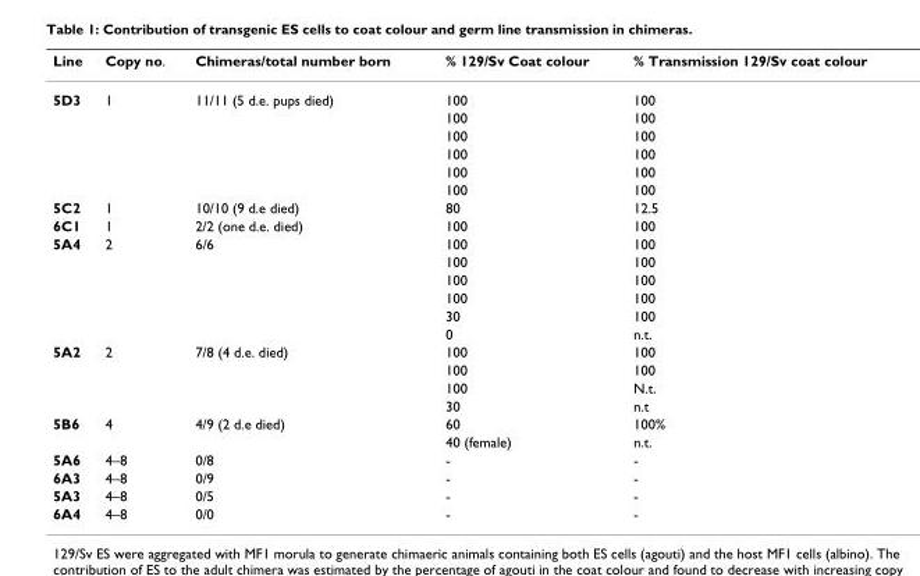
<table><thead><tr><td>Line</td><td>Copy no.</td><td>Chimeras/total number born</td><td>% 129/Sv Coat colour</td><td>% Transmission 129/Sv coat colour</td></tr></thead><tbody><tr><td rowspan="6">5D3</td><td>1</td><td>11/11 (5 d.e. pups died)</td><td>100</td><td>100</td></tr><tr><td></td><td></td><td>100</td><td>100</td></tr><tr><td></td><td></td><td>100</td><td>100</td></tr><tr><td></td><td></td><td>100</td><td>100</td></tr><tr><td></td><td></td><td>100</td><td>100</td></tr><tr><td></td><td></td><td>100</td><td>100</td></tr><tr><td>5C2</td><td>1</td><td>10/10 (9 d.e died)</td><td>80</td><td>12.5</td></tr><tr><td>6C1</td><td>1</td><td>2/2 (one d.e. died)</td><td>100</td><td>100</td></tr><tr><td rowspan="6">5A4</td><td>2</td><td>6/6</td><td>100</td><td>100</td></tr><tr><td></td><td></td><td>100</td><td>100</td></tr><tr><td></td><td></td><td>100</td><td>100</td></tr><tr><td></td><td></td><td>100</td><td>100</td></tr><tr><td></td><td></td><td>30</td><td>100</td></tr><tr><td></td><td></td><td>0</td><td>n.t.</td></tr><tr><td rowspan="4">5A2</td><td>2</td><td>7/8 (4 d.e. died)</td><td>100</td><td>100</td></tr><tr><td></td><td></td><td>100</td><td>100</td></tr><tr><td></td><td></td><td>100</td><td>N.t.</td></tr><tr><td></td><td></td><td>30</td><td>n.t</td></tr><tr><td rowspan="2">5B6</td><td>4</td><td>4/9 (2 d.e died)</td><td>60</td><td>100%</td></tr><tr><td></td><td></td><td>40 (female)</td><td>n.t.</td></tr><tr><td>5A6</td><td>4–8</td><td>0/8</td><td>-</td><td>-</td></tr><tr><td>6A3</td><td>4–8</td><td>0/9</td><td>-</td><td>-</td></tr><tr><td>5A3</td><td>4–8</td><td>0/5</td><td>-</td><td>-</td></tr><tr><td>6A4</td><td>4–8</td><td>0/0</td><td>-</td><td>-</td></tr></tbody></table>